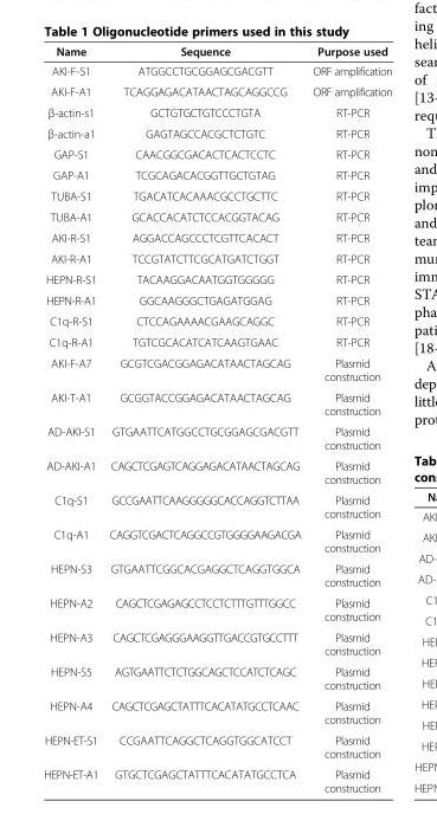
<table><thead><tr><td>Name</td><td>Sequence</td><td>Purpose used</td></tr></thead><tbody><tr><td>AKI-F-S1</td><td>ATGGCCTGCGGAGCGACGTT</td><td>ORF amplification</td></tr><tr><td>AKI-F-A1</td><td>TCAGGAGACATAACTAGCAGGCCG</td><td>ORF amplification</td></tr><tr><td>β-actin-s1</td><td>GCTGTGCTGTCCCTGTA</td><td>RT-PCR</td></tr><tr><td>β-actin-a1</td><td>GAGTAGCCACGCTCTGTC</td><td>RT-PCR</td></tr><tr><td>GAP-S1</td><td>CAACGGCGACACTCACTCCTC</td><td>RT-PCR</td></tr><tr><td>GAP-A1</td><td>TCGCAGACACGGTTGCTGTAG</td><td>RT-PCR</td></tr><tr><td>TUBA-S1</td><td>TGACATCACAAACGCCTGCTTC</td><td>RT-PCR</td></tr><tr><td>TUBA-A1</td><td>GCACCACATCTCCACGGTACAG</td><td>RT-PCR</td></tr><tr><td>AKI-R-S1</td><td>AGGACCAGCCCTCGTTCACACT</td><td>RT-PCR</td></tr><tr><td>AKI-R-A1</td><td>TCCGTATCTTCGCATGATCTGGT</td><td>RT-PCR</td></tr><tr><td>HEPN-R-S1</td><td>TACAAGGACAATGGTGGGGG</td><td>RT-PCR</td></tr><tr><td>HEPN-R-A1</td><td>GGCAAGGGCTGAGATGGAG</td><td>RT-PCR</td></tr><tr><td>C1q-R-S1</td><td>CTCCAGAAAACGAAGCAGGC</td><td>RT-PCR</td></tr><tr><td>C1q-R-A1</td><td>TGTCGCACATCATCAAGTGAAC</td><td>RT-PCR</td></tr><tr><td>AKI-F-A7</td><td>GCGTCGACGGAGACATAACTAGCAG</td><td>Plasmid construction</td></tr><tr><td>AKI-T-A1</td><td>GCGGTACCGGAGACATAACTAGCAG</td><td>Plasmid construction</td></tr><tr><td>AD-AKI-S1</td><td>GTGAATTCATGGCCTGCGGAGCGACGTT</td><td>Plasmid construction</td></tr><tr><td>AD-AKI-A1</td><td>CAGCTCGAGTCAGGAGACATAACTAGCAG</td><td>Plasmid construction</td></tr><tr><td>C1q-S1</td><td>GCCGAATTCAAGGGGGCACCAGGTCTTAA</td><td>Plasmid construction</td></tr><tr><td>C1q-A1</td><td>CAGGTCGACTCAGGCCGTGGGGAAGACGA</td><td>Plasmid construction</td></tr><tr><td>HEPN-S3</td><td>GTGAATTCGGCACGAGGCTCAGGTGGCA</td><td>Plasmid construction</td></tr><tr><td>HEPN-A2</td><td>CAGCTCGAGAGCCTCCTCTTTGTTTGGCC</td><td>Plasmid construction</td></tr><tr><td>HEPN-A3</td><td>CAGCTCGAGGGAAGGTTGACCGTGCCTTT</td><td>Plasmid construction</td></tr><tr><td>HEPN-S5</td><td>AGTGAATTCTCTGGCAGCTCCATCTCAGC</td><td>Plasmid construction</td></tr><tr><td>HEPN-A4</td><td>CAGCTCGAGCTATTTCACATATGCCTCAAC</td><td>Plasmid construction</td></tr><tr><td>HEPN-ET-S1</td><td>CCGAATTCAGGCTCAGGTGGCATCCT</td><td>Plasmid construction</td></tr><tr><td>HEPN-ET-A1</td><td>GTGCTCGAGCTATTTCACATATGCCTCA</td><td>Plasmid construction</td></tr></tbody></table>